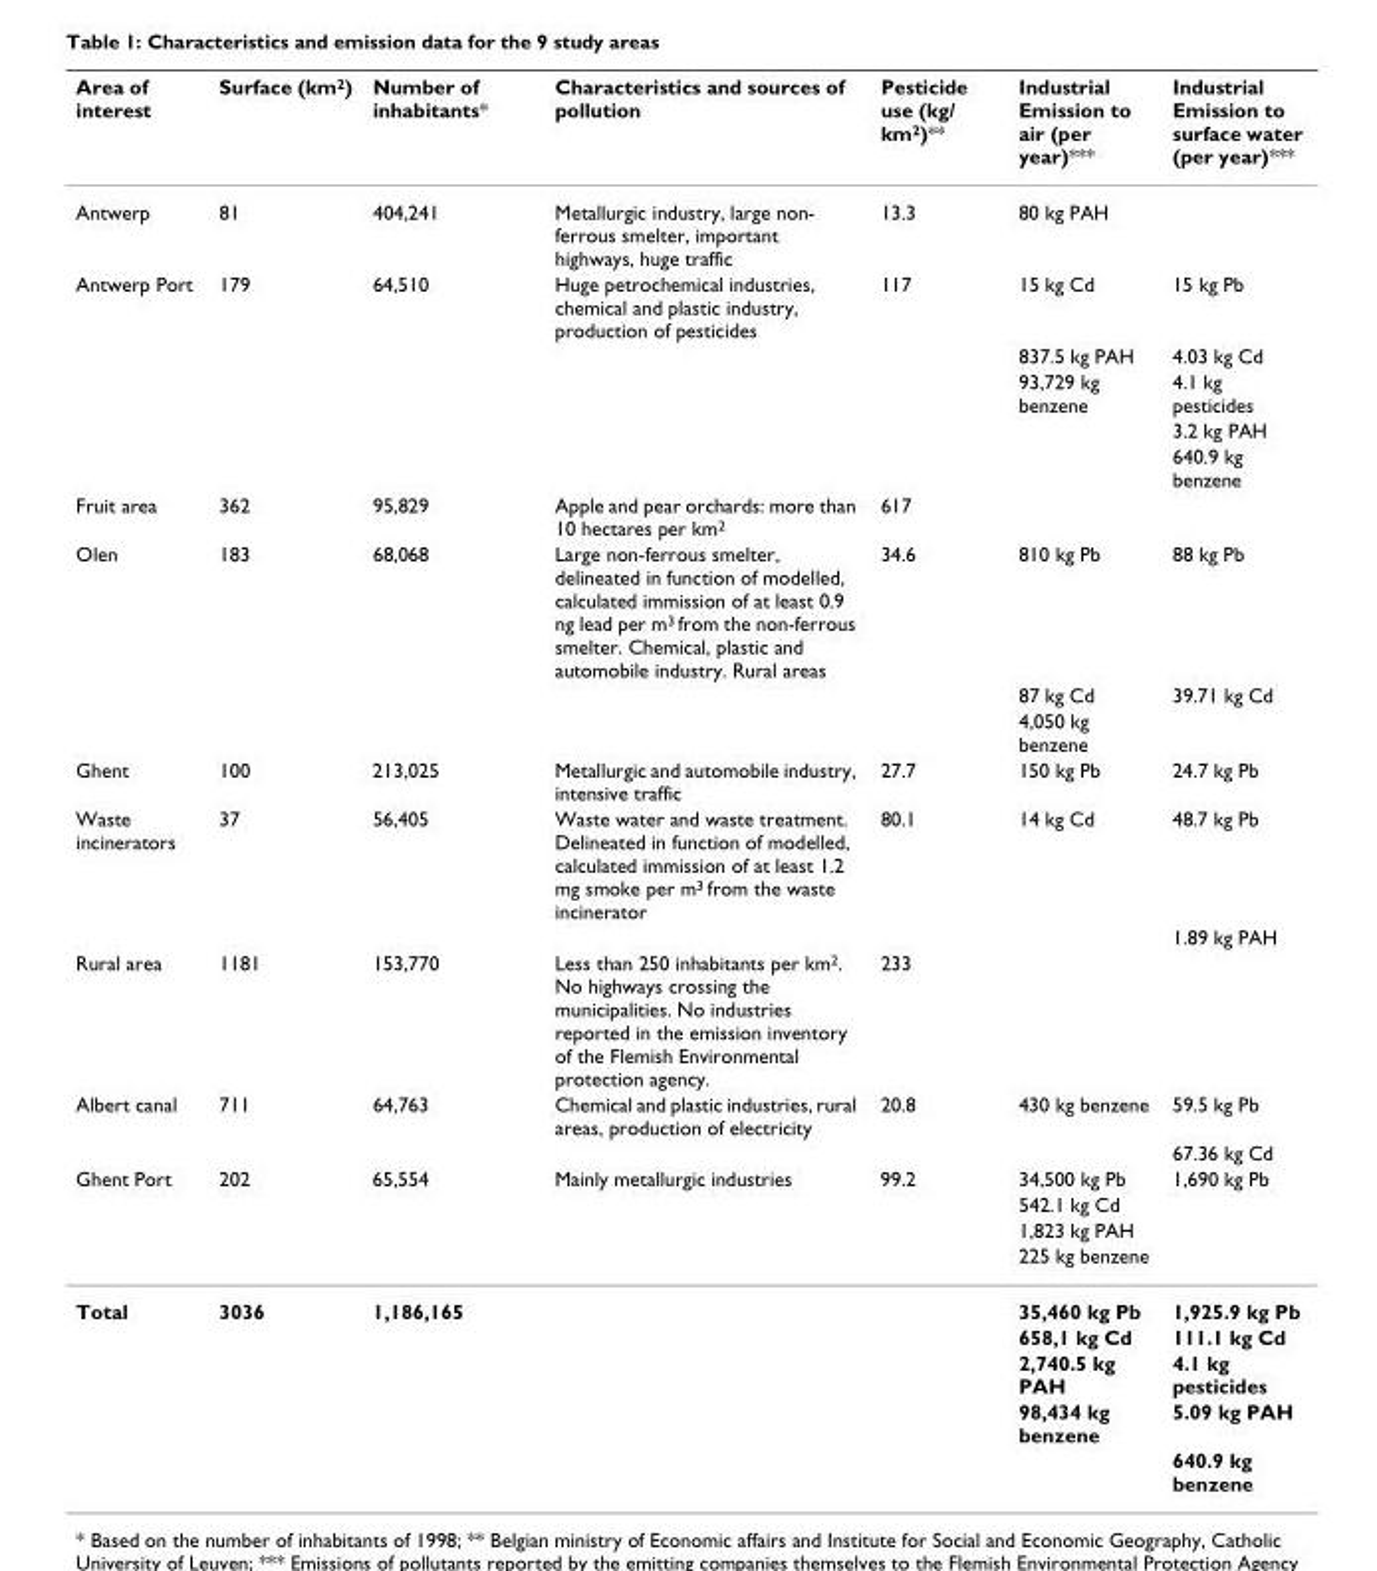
<table><thead><tr><td>Area of interest</td><td>Surface (km<sup>2</sup>)</td><td>Number of inhabitants*</td><td>Characteristics and sources of pollution</td><td>Pesticide use (kg/ km<sup>2</sup>)**</td><td>Industrial Emission to air (per year)***</td><td>Industrial Emission to surface water (per year)***</td></tr></thead><tbody><tr><td>Antwerp</td><td>81</td><td>404,241</td><td>Metallurgic industry, large non- ferrous smelter, important highways, huge traffic</td><td>13.3</td><td>80 kg PAH</td><td></td></tr><tr><td rowspan="5">Antwerp Port</td><td>179</td><td>64,510</td><td>Huge petrochemical industries, chemical and plastic industry, production of pesticides</td><td>117</td><td>15 kg Cd</td><td>15 kg Pb</td></tr><tr><td></td><td></td><td></td><td></td><td>837.5 kg PAH</td><td>4.03 kg Cd</td></tr><tr><td></td><td></td><td></td><td></td><td>93,729 kg benzene</td><td>4.1 kg pesticides</td></tr><tr><td></td><td></td><td></td><td></td><td></td><td>3.2 kg PAH</td></tr><tr><td></td><td></td><td></td><td></td><td></td><td>640.9 kg benzene</td></tr><tr><td>Fruit area</td><td>362</td><td>95,829</td><td>Apple and pear orchards: more than 10 hectares per km<sup>2</sup></td><td>617</td><td></td><td></td></tr><tr><td rowspan="3">Olen</td><td>183</td><td>68,068</td><td>Large non-ferrous smelter, delineated in function of modelled, calculated immission of at least 0.9 ng lead per m<sup>3</sup> from the non-ferrous smelter. Chemical, plastic and automobile industry. Rural areas</td><td>34.6</td><td>810 kg Pb</td><td>88 kg Pb</td></tr><tr><td></td><td></td><td></td><td></td><td>87 kg Cd</td><td>39.71 kg Cd</td></tr><tr><td></td><td></td><td></td><td></td><td>4,050 kg benzene</td><td></td></tr><tr><td>Ghent</td><td>100</td><td>213,025</td><td>Metallurgic and automobile industry, intensive traffic</td><td>27.7</td><td>150 kg Pb</td><td>24.7 kg Pb</td></tr><tr><td rowspan="2">Waste incinerators</td><td>37</td><td>56,405</td><td>Waste water and waste treatment. Delineated in function of modelled, calculated immission of at least 1.2 mg smoke per m<sup>3</sup> from the waste incinerator</td><td>80.1</td><td>14 kg Cd</td><td>48.7 kg Pb</td></tr><tr><td></td><td></td><td></td><td></td><td></td><td>1.89 kg PAH</td></tr><tr><td>Rural area</td><td>1181</td><td>153,770</td><td>Less than 250 inhabitants per km<sup>2</sup>. No highways crossing the municipalities. No industries reported in the emission inventory of the Flemish Environmental protection agency.</td><td>233</td><td></td><td></td></tr><tr><td rowspan="2">Albert canal</td><td>711</td><td>64,763</td><td>Chemical and plastic industries, rural areas, production of electricity</td><td>20.8</td><td>430 kg benzene</td><td>59.5 kg Pb</td></tr><tr><td></td><td></td><td></td><td></td><td></td><td>67.36 kg Cd</td></tr><tr><td rowspan="4">Ghent Port</td><td>202</td><td>65,554</td><td>Mainly metallurgic industries</td><td>99.2</td><td>34,500 kg Pb</td><td>1,690 kg Pb</td></tr><tr><td></td><td></td><td></td><td></td><td>542.1 kg Cd</td><td></td></tr><tr><td></td><td></td><td></td><td></td><td>1,823 kg PAH</td><td></td></tr><tr><td></td><td></td><td></td><td></td><td>225 kg benzene</td><td></td></tr><tr><td rowspan="5">Total</td><td>3036</td><td>1,186,165</td><td></td><td></td><td>35,460 kg Pb</td><td>1,925.9 kg Pb</td></tr><tr><td></td><td></td><td></td><td></td><td>658,1 kg Cd</td><td>111.1 kg Cd</td></tr><tr><td></td><td></td><td></td><td></td><td>2,740.5 kg PAH</td><td>4.1 kg pesticides</td></tr><tr><td></td><td></td><td></td><td></td><td>98,434 kg benzene</td><td>5.09 kg PAH</td></tr><tr><td></td><td></td><td></td><td></td><td></td><td>640.9 kg benzene</td></tr></tbody></table>